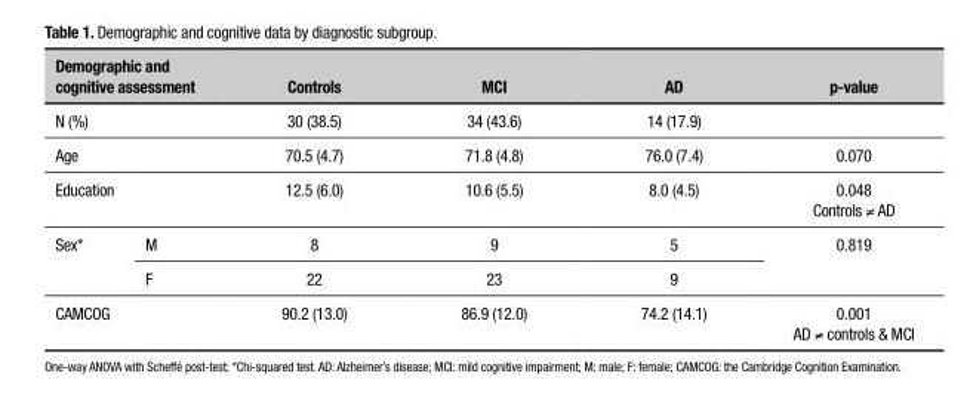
<table><thead><tr><td colspan="2">Demographic and cognitive assessment</td><td>Controls</td><td>MCI</td><td>AD</td><td>p-value</td></tr></thead><tbody><tr><td colspan="2">N (%)</td><td>30 (38.5)</td><td>34 (43.6)</td><td>14 (17.9)</td><td></td></tr><tr><td colspan="2">Age</td><td>70.5 (4.7)</td><td>71.8 (4.8)</td><td>76.0 (7.4)</td><td>0.070</td></tr><tr><td colspan="2">Education</td><td>12.5 (6.0)</td><td>10.6 (5.5)</td><td>8.0 (4.5)</td><td>0.048 Controls ≠ AD</td></tr><tr><td rowspan="2">Sex*</td><td>M</td><td>8</td><td>9</td><td>5</td><td rowspan="2">0.819</td></tr><tr><td>F</td><td>22</td><td>23</td><td>9</td></tr><tr><td colspan="2">CAMCOG</td><td>90.2 (13.0)</td><td>86.9 (12.0)</td><td>74.2 (14.1)</td><td>0.001 AD ≠ controls &amp; MCI</td></tr></tbody></table>